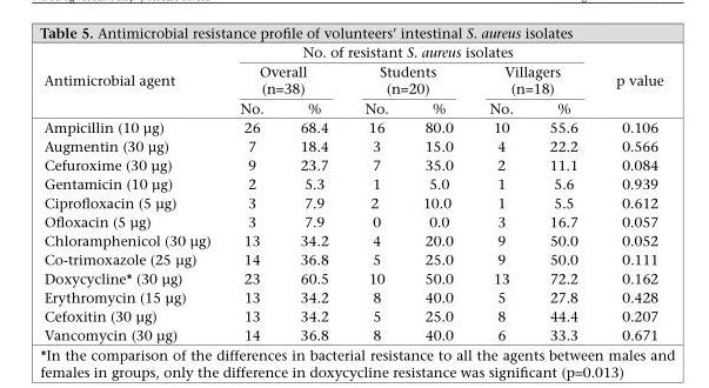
<table><thead><tr><td rowspan="3">Antimicrobial agent</td><td colspan="6">No. of resistant S. aureus isolates</td><td rowspan="3">p value</td></tr><tr><td colspan="2">Overall (n=38)</td><td colspan="2">Students (n=20)</td><td colspan="2">Villagers (n=18)</td></tr><tr><td>No.</td><td>%</td><td>No.</td><td>%</td><td>No.</td><td>%</td></tr></thead><tbody><tr><td>Ampicillin (10 µg)</td><td>26</td><td>68.4</td><td>16</td><td>80.0</td><td>10</td><td>55.6</td><td>0.106</td></tr><tr><td>Augmentin (30 µg)</td><td>7</td><td>18.4</td><td>3</td><td>15.0</td><td>4</td><td>22.2</td><td>0.566</td></tr><tr><td>Cefuroxime (30 µg)</td><td>9</td><td>23.7</td><td>7</td><td>35.0</td><td>2</td><td>11.1</td><td>0.084</td></tr><tr><td>Gentamicin (10 µg)</td><td>2</td><td>5.3</td><td>1</td><td>5.0</td><td>1</td><td>5.6</td><td>0.939</td></tr><tr><td>Ciprofloxacin (5 µg)</td><td>3</td><td>7.9</td><td>2</td><td>10.0</td><td>1</td><td>5.5</td><td>0.612</td></tr><tr><td>Ofloxacin (5 µg)</td><td>3</td><td>7.9</td><td>0</td><td>0.0</td><td>3</td><td>16.7</td><td>0.057</td></tr><tr><td>Chloramphenicol (30 µg)</td><td>13</td><td>34.2</td><td>4</td><td>20.0</td><td>9</td><td>50.0</td><td>0.052</td></tr><tr><td>Co-trimoxazole (25 µg)</td><td>14</td><td>36.8</td><td>5</td><td>25.0</td><td>9</td><td>50.0</td><td>0.111</td></tr><tr><td>Doxycycline* (30 µg)</td><td>23</td><td>60.5</td><td>10</td><td>50.0</td><td>13</td><td>72.2</td><td>0.162</td></tr><tr><td>Erythromycin (15 µg)</td><td>13</td><td>34.2</td><td>8</td><td>40.0</td><td>5</td><td>27.8</td><td>0.428</td></tr><tr><td>Cefoxitin (30 µg)</td><td>13</td><td>34.2</td><td>5</td><td>25.0</td><td>8</td><td>44.4</td><td>0.207</td></tr><tr><td>Vancomycin (30 µg)</td><td>14</td><td>36.8</td><td>8</td><td>40.0</td><td>6</td><td>33.3</td><td>0.671</td></tr></tbody></table>